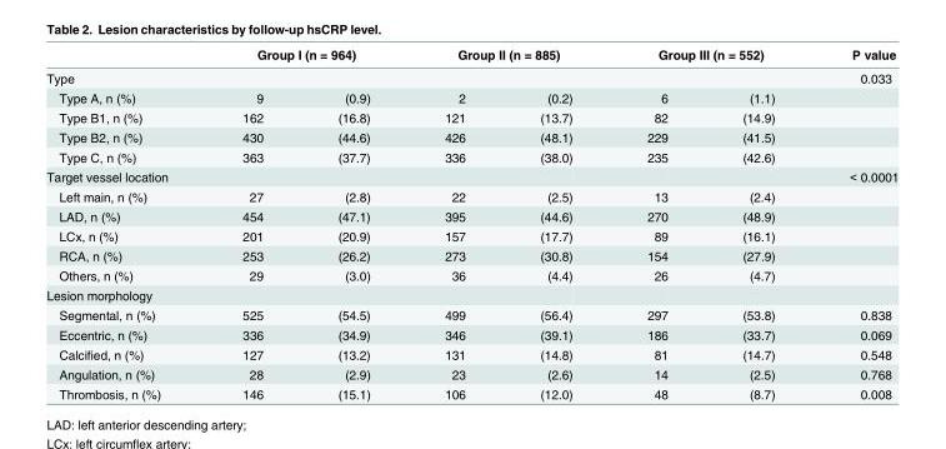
<table><thead><tr><td rowspan="2">Type</td><td colspan="2">Group I (n = 964)</td><td colspan="2">Group II (n = 885)</td><td colspan="2">Group III (n = 552)</td><td rowspan="2">P value 0.033</td></tr><tr><td></td><td></td><td></td><td></td><td></td><td></td></tr></thead><tbody><tr><td>Type A, n (%)</td><td>9</td><td>(0.9)</td><td>2</td><td>(0.2)</td><td>6</td><td>(1.1)</td><td></td></tr><tr><td>Type B1, n (%)</td><td>162</td><td>(16.8)</td><td>121</td><td>(13.7)</td><td>82</td><td>(14.9)</td><td></td></tr><tr><td>Type B2, n (%)</td><td>430</td><td>(44.6)</td><td>426</td><td>(48.1)</td><td>229</td><td>(41.5)</td><td></td></tr><tr><td>Type C, n (%)</td><td>363</td><td>(37.7)</td><td>336</td><td>(38.0)</td><td>235</td><td>(42.6)</td><td></td></tr><tr><td>Target vessel location</td><td></td><td></td><td></td><td></td><td></td><td></td><td>&lt; 0.0001</td></tr><tr><td>Left main, n (%)</td><td>27</td><td>(2.8)</td><td>22</td><td>(2.5)</td><td>13</td><td>(2.4)</td><td></td></tr><tr><td>LAD, n (%)</td><td>454</td><td>(47.1)</td><td>395</td><td>(44.6)</td><td>270</td><td>(48.9)</td><td></td></tr><tr><td>LCx, n (%)</td><td>201</td><td>(20.9)</td><td>157</td><td>(17.7)</td><td>89</td><td>(16.1)</td><td></td></tr><tr><td>RCA, n (%)</td><td>253</td><td>(26.2)</td><td>273</td><td>(30.8)</td><td>154</td><td>(27.9)</td><td></td></tr><tr><td>Others, n (%)</td><td>29</td><td>(3.0)</td><td>36</td><td>(4.4)</td><td>26</td><td>(4.7)</td><td></td></tr><tr><td colspan="8">Lesion morphology</td></tr><tr><td>Segmental, n (%)</td><td>525</td><td>(54.5)</td><td>499</td><td>(56.4)</td><td>297</td><td>(53.8)</td><td>0.838</td></tr><tr><td>Eccentric, n (%)</td><td>336</td><td>(34.9)</td><td>346</td><td>(39.1)</td><td>186</td><td>(33.7)</td><td>0.069</td></tr><tr><td>Calcified, n (%)</td><td>127</td><td>(13.2)</td><td>131</td><td>(14.8)</td><td>81</td><td>(14.7)</td><td>0.548</td></tr><tr><td>Angulation, n (%)</td><td>28</td><td>(2.9)</td><td>23</td><td>(2.6)</td><td>14</td><td>(2.5)</td><td>0.768</td></tr><tr><td>Thrombosis, n (%)</td><td>146</td><td>(15.1)</td><td>106</td><td>(12.0)</td><td>48</td><td>(8.7)</td><td>0.008</td></tr></tbody></table>